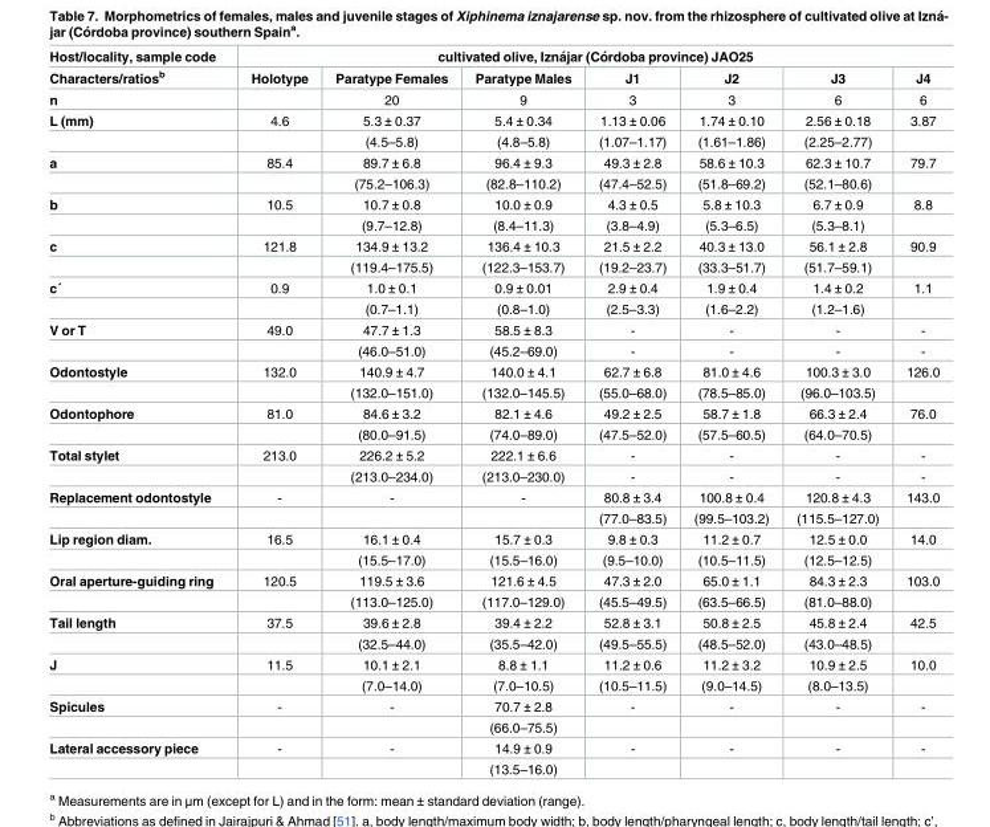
<table><thead><tr><td rowspan="2">Host/locality, sample code Characters/ratios<sup>b</sup></td><td colspan="7">cultivated olive, Izna´jar (Co´rdoba province) JAO25</td></tr><tr><td>Holotype</td><td>Paratype Females</td><td>Paratype Males</td><td>J1</td><td>J2</td><td>J3</td><td>J4</td></tr></thead><tbody><tr><td>n</td><td></td><td>20</td><td>9</td><td>3</td><td>3</td><td>6</td><td>6</td></tr><tr><td rowspan="2">L (mm)</td><td>4.6</td><td>5.3 ± 0.37</td><td>5.4 ± 0.34</td><td>1.13 ± 0.06</td><td>1.74 ± 0.10</td><td>2.56 ± 0.18</td><td>3.87</td></tr><tr><td></td><td>(4.5–5.8)</td><td>(4.8–5.8)</td><td>(1.07–1.17)</td><td>(1.61–1.86)</td><td>(2.25–2.77)</td><td></td></tr><tr><td rowspan="2">a</td><td>85.4</td><td>89.7 ± 6.8</td><td>96.4 ± 9.3</td><td>49.3 ± 2.8</td><td>58.6 ± 10.3</td><td>62.3 ± 10.7</td><td>79.7</td></tr><tr><td></td><td>(75.2–106.3)</td><td>(82.8–110.2)</td><td>(47.4–52.5)</td><td>(51.8–69.2)</td><td>(52.1–80.6)</td><td></td></tr><tr><td rowspan="2">b</td><td>10.5</td><td>10.7 ± 0.8</td><td>10.0 ± 0.9</td><td>4.3 ± 0.5</td><td>5.8 ± 10.3</td><td>6.7 ± 0.9</td><td>8.8</td></tr><tr><td></td><td>(9.7–12.8)</td><td>(8.4–11.3)</td><td>(3.8–4.9)</td><td>(5.3–6.5)</td><td>(5.3–8.1)</td><td></td></tr><tr><td rowspan="2">c</td><td>121.8</td><td>134.9 ± 13.2</td><td>136.4 ± 10.3</td><td>21.5 ± 2.2</td><td>40.3 ± 13.0</td><td>56.1 ± 2.8</td><td>90.9</td></tr><tr><td></td><td>(119.4–175.5)</td><td>(122.3–153.7)</td><td>(19.2–23.7)</td><td>(33.3–51.7)</td><td>(51.7–59.1)</td><td></td></tr><tr><td rowspan="2">c´</td><td>0.9</td><td>1.0 ± 0.1</td><td>0.9 ± 0.01</td><td>2.9 ± 0.4</td><td>1.9 ± 0.4</td><td>1.4 ± 0.2</td><td>1.1</td></tr><tr><td></td><td>(0.7–1.1)</td><td>(0.8–1.0)</td><td>(2.5–3.3)</td><td>(1.6–2.2)</td><td>(1.2–1.6)</td><td></td></tr><tr><td rowspan="2">V or T</td><td>49.0</td><td>47.7 ± 1.3</td><td>58.5 ± 8.3</td><td>-</td><td>-</td><td>-</td><td>-</td></tr><tr><td></td><td>(46.0–51.0)</td><td>(45.2–69.0)</td><td>-</td><td>-</td><td>-</td><td>-</td></tr><tr><td rowspan="2">Odontostyle</td><td>132.0</td><td>140.9 ± 4.7</td><td>140.0 ± 4.1</td><td>62.7 ± 6.8</td><td>81.0 ± 4.6</td><td>100.3 ± 3.0</td><td>126.0</td></tr><tr><td></td><td>(132.0–151.0)</td><td>(132.0–145.5)</td><td>(55.0–68.0)</td><td>(78.5–85.0)</td><td>(96.0–103.5)</td><td></td></tr><tr><td rowspan="2">Odontophore</td><td>81.0</td><td>84.6 ± 3.2</td><td>82.1 ± 4.6</td><td>49.2 ± 2.5</td><td>58.7 ± 1.8</td><td>66.3 ± 2.4</td><td>76.0</td></tr><tr><td></td><td>(80.0–91.5)</td><td>(74.0–89.0)</td><td>(47.5–52.0)</td><td>(57.5–60.5)</td><td>(64.0–70.5)</td><td></td></tr><tr><td rowspan="2">Total stylet</td><td>213.0</td><td>226.2 ± 5.2</td><td>222.1 ± 6.6</td><td>-</td><td>-</td><td>-</td><td>-</td></tr><tr><td></td><td>(213.0–234.0)</td><td>(213.0–230.0)</td><td>-</td><td>-</td><td>-</td><td>-</td></tr><tr><td rowspan="2">Replacement odontostyle</td><td>-</td><td>-</td><td>-</td><td>80.8 ± 3.4</td><td>100.8 ± 0.4</td><td>120.8 ± 4.3</td><td>143.0</td></tr><tr><td></td><td></td><td></td><td>(77.0–83.5)</td><td>(99.5–103.2)</td><td>(115.5–127.0)</td><td></td></tr><tr><td rowspan="2">Lip region diam.</td><td>16.5</td><td>16.1 ± 0.4</td><td>15.7 ± 0.3</td><td>9.8 ± 0.3</td><td>11.2 ± 0.7</td><td>12.5 ± 0.0</td><td>14.0</td></tr><tr><td></td><td>(15.5–17.0)</td><td>(15.5–16.0)</td><td>(9.5–10.0)</td><td>(10.5–11.5)</td><td>(12.5–12.5)</td><td></td></tr><tr><td rowspan="2">Oral aperture-guiding ring</td><td>120.5</td><td>119.5 ± 3.6</td><td>121.6 ± 4.5</td><td>47.3 ± 2.0</td><td>65.0 ± 1.1</td><td>84.3 ± 2.3</td><td>103.0</td></tr><tr><td></td><td>(113.0–125.0)</td><td>(117.0–129.0)</td><td>(45.5–49.5)</td><td>(63.5–66.5)</td><td>(81.0–88.0)</td><td></td></tr><tr><td rowspan="2">Tail length</td><td>37.5</td><td>39.6 ± 2.8</td><td>39.4 ± 2.2</td><td>52.8 ± 3.1</td><td>50.8 ± 2.5</td><td>45.8 ± 2.4</td><td>42.5</td></tr><tr><td></td><td>(32.5–44.0)</td><td>(35.5–42.0)</td><td>(49.5–55.5)</td><td>(48.5–52.0)</td><td>(43.0–48.5)</td><td></td></tr><tr><td rowspan="2">J</td><td>11.5</td><td>10.1 ± 2.1</td><td>8.8 ± 1.1</td><td>11.2 ± 0.6</td><td>11.2 ± 3.2</td><td>10.9 ± 2.5</td><td>10.0</td></tr><tr><td></td><td>(7.0–14.0)</td><td>(7.0–10.5)</td><td>(10.5–11.5)</td><td>(9.0–14.5)</td><td>(8.0–13.5)</td><td></td></tr><tr><td rowspan="2">Spicules</td><td>-</td><td>-</td><td>70.7 ± 2.8</td><td>-</td><td>-</td><td>-</td><td>-</td></tr><tr><td></td><td></td><td>(66.0–75.5)</td><td></td><td></td><td></td><td></td></tr><tr><td rowspan="2">Lateral accessory piece</td><td>-</td><td>-</td><td>14.9 ± 0.9</td><td>-</td><td>-</td><td>-</td><td>-</td></tr><tr><td></td><td></td><td>(13.5–16.0)</td><td></td><td></td><td></td><td></td></tr></tbody></table>